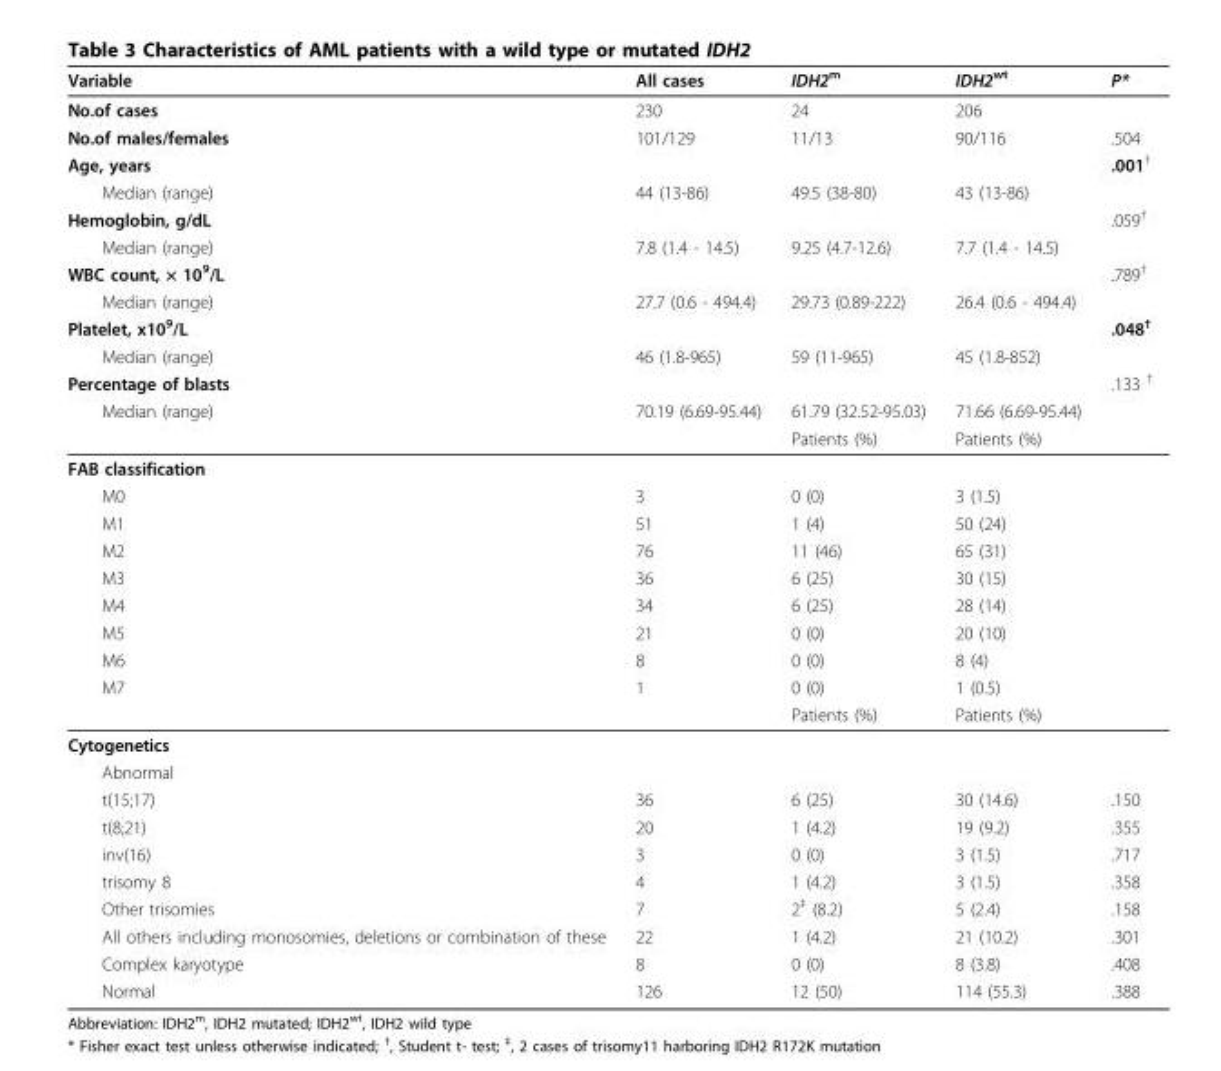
<table><thead><tr><td>Variable</td><td>All cases</td><td>IDH2<sup>m</sup></td><td>IDH2<sup>wt</sup></td><td>P*</td></tr></thead><tbody><tr><td>No.of cases</td><td>230</td><td>24</td><td>206</td><td></td></tr><tr><td>No.of males/females</td><td>101/129</td><td>11/13</td><td>90/116</td><td>.504</td></tr><tr><td>Age, years</td><td></td><td></td><td></td><td>.001<sup>†</sup></td></tr><tr><td>Median (range)</td><td>44 (13-86)</td><td>49.5 (38-80)</td><td>43 (13-86)</td><td></td></tr><tr><td>Hemoglobin, g/dL</td><td></td><td></td><td></td><td>.059<sup>†</sup></td></tr><tr><td>Median (range)</td><td>7.8 (1.4 - 14.5)</td><td>9.25 (4.7-12.6)</td><td>7.7 (1.4 - 14.5)</td><td></td></tr><tr><td>WBC count, × 10<sup>9</sup>/L</td><td></td><td></td><td></td><td>.789<sup>†</sup></td></tr><tr><td>Median (range)</td><td>27.7 (0.6 - 494.4)</td><td>29.73 (0.89-222)</td><td>26.4 (0.6 - 494.4)</td><td></td></tr><tr><td>Platelet, x10<sup>9</sup>/L</td><td></td><td></td><td></td><td>.048<sup>†</sup></td></tr><tr><td>Median (range)</td><td>46 (1.8-965)</td><td>59 (11-965)</td><td>45 (1.8-852)</td><td></td></tr><tr><td>Percentage of blasts</td><td></td><td></td><td></td><td>.133 <sup>†</sup></td></tr><tr><td rowspan="2">Median (range)</td><td>70.19 (6.69-95.44)</td><td>61.79 (32.52-95.03)</td><td>71.66 (6.69-95.44)</td><td></td></tr><tr><td></td><td>Patients (%)</td><td>Patients (%)</td><td></td></tr><tr><td colspan="5">FAB classification</td></tr><tr><td>M0</td><td>3</td><td>0 (0)</td><td>3 (1.5)</td><td></td></tr><tr><td>M1</td><td>51</td><td>1 (4)</td><td>50 (24)</td><td></td></tr><tr><td>M2</td><td>76</td><td>11 (46)</td><td>65 (31)</td><td></td></tr><tr><td>M3</td><td>36</td><td>6 (25)</td><td>30 (15)</td><td></td></tr><tr><td>M4</td><td>34</td><td>6 (25)</td><td>28 (14)</td><td></td></tr><tr><td>M5</td><td>21</td><td>0 (0)</td><td>20 (10)</td><td></td></tr><tr><td>M6</td><td>8</td><td>0 (0)</td><td>8 (4)</td><td></td></tr><tr><td rowspan="2">M7</td><td>1</td><td>0 (0)</td><td>1 (0.5)</td><td></td></tr><tr><td></td><td>Patients (%)</td><td>Patients (%)</td><td></td></tr><tr><td colspan="5">Cytogenetics</td></tr><tr><td colspan="5">Abnormal</td></tr><tr><td>t(15;17)</td><td>36</td><td>6 (25)</td><td>30 (14.6)</td><td>.150</td></tr><tr><td>t(8;21)</td><td>20</td><td>1 (4.2)</td><td>19 (9.2)</td><td>.355</td></tr><tr><td>inv(16)</td><td>3</td><td>0 (0)</td><td>3 (1.5)</td><td>.717</td></tr><tr><td>trisomy 8</td><td>4</td><td>1 (4.2)</td><td>3 (1.5)</td><td>.358</td></tr><tr><td>Other trisomies</td><td>7</td><td>2<sup>‡</sup> (8.2)</td><td>5 (2.4)</td><td>.158</td></tr><tr><td>All others including monosomies, deletions or combination of these</td><td>22</td><td>1 (4.2)</td><td>21 (10.2)</td><td>.301</td></tr><tr><td>Complex karyotype</td><td>8</td><td>0 (0)</td><td>8 (3.8)</td><td>.408</td></tr><tr><td>Normal</td><td>126</td><td>12 (50)</td><td>114 (55.3)</td><td>.388</td></tr></tbody></table>